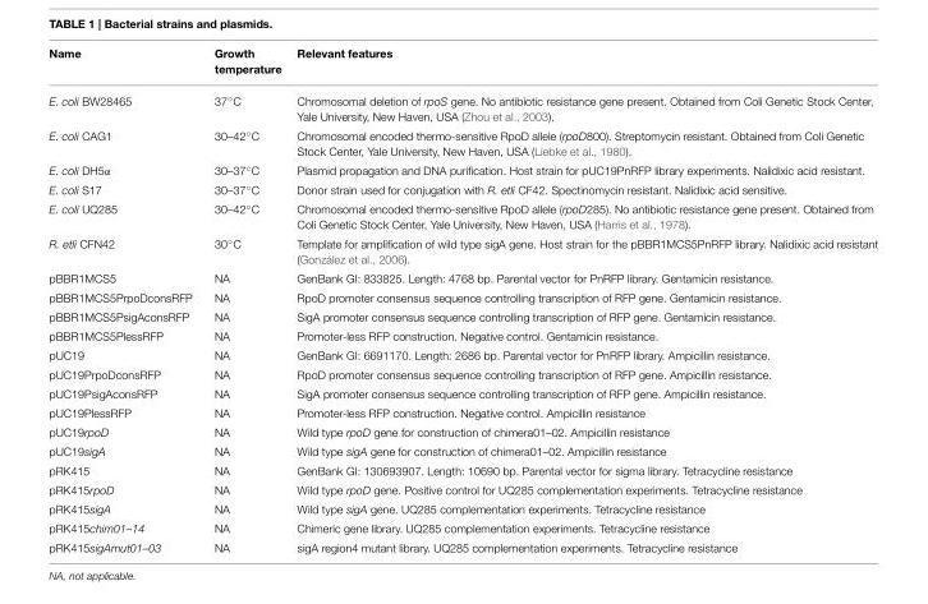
<table><thead><tr><td>Name</td><td>Growth temperature</td><td>Relevant features</td></tr></thead><tbody><tr><td>E. coli BW28465</td><td>37◦C</td><td>Chromosomal deletion of rpoS gene. No antibiotic resistance gene present. Obtained from Coli Genetic Stock Center, Yale University, New Haven, USA (Zhou et al., 2003).</td></tr><tr><td>E. coli CAG1</td><td>30–42◦C</td><td>Chromosomal encoded thermo-sensitive RpoD allele (rpoD800). Streptomycin resistant. Obtained from Coli Genetic Stock Center, Yale University, New Haven, USA (Liebke et al., 1980).</td></tr><tr><td>E. coli DH5α</td><td>30–37◦C</td><td>Plasmid propagation and DNA purification. Host strain for pUC19PnRFP library experiments. Nalidixic acid resistant.</td></tr><tr><td>E. coli S17</td><td>30–37◦C</td><td>Donor strain used for conjugation with R. etli CF42. Spectinomycin resistant. Nalidixic acid sensitive.</td></tr><tr><td>E. coli UQ285</td><td>30–42◦C</td><td>Chromosomal encoded thermo-sensitive RpoD allele (rpoD285). No antibiotic resistance gene present. Obtained from Coli Genetic Stock Center, Yale University, New Haven, USA (Harris et al., 1978).</td></tr><tr><td>R. etli CFN42</td><td>30◦C</td><td>Template for amplification of wild type sigA gene. Host strain for the pBBR1MCS5PnRFP library. Nalidixic acid resistant (González et al., 2006).</td></tr><tr><td>pBBR1MCS5</td><td>NA</td><td>GenBank GI: 833825. Length: 4768 bp. Parental vector for PnRFP library. Gentamicin resistance.</td></tr><tr><td>pBBR1MCS5PrpoDconsRFP</td><td>NA</td><td>RpoD promoter consensus sequence controlling transcription of RFP gene. Gentamicin resistance.</td></tr><tr><td>pBBR1MCS5PsigAconsRFP</td><td>NA</td><td>SigA promoter consensus sequence controlling transcription of RFP gene. Gentamicin resistance.</td></tr><tr><td>pBBR1MCS5PlessRFP</td><td>NA</td><td>Promoter-less RFP construction. Negative control. Gentamicin resistance.</td></tr><tr><td>pUC19</td><td>NA</td><td>GenBank GI: 6691170. Length: 2686 bp. Parental vector for PnRFP library. Ampicillin resistance.</td></tr><tr><td>pUC19PrpoDconsRFP</td><td>NA</td><td>RpoD promoter consensus sequence controlling transcription of RFP gene. Ampicillin resistance.</td></tr><tr><td>pUC19PsigAconsRFP</td><td>NA</td><td>SigA promoter consensus sequence controlling transcription of RFP gene. Ampicillin resistance.</td></tr><tr><td>pUC19PlessRFP</td><td>NA</td><td>Promoter-less RFP construction. Negative control. Ampicillin resistance</td></tr><tr><td>pUC19rpoD</td><td>NA</td><td>Wild type rpoD gene for construction of chimera01–02. Ampicillin resistance</td></tr><tr><td>pUC19sigA</td><td>NA</td><td>Wild type sigA gene for construction of chimera01–02. Ampicillin resistance</td></tr><tr><td>pRK415</td><td>NA</td><td>GenBank GI: 130693907. Length: 10690 bp. Parental vector for sigma library. Tetracycline resistance</td></tr><tr><td>pRK415rpoD</td><td>NA</td><td>Wild type rpoD gene. Positive control for UQ285 complementation experiments. Tetracycline resistance</td></tr><tr><td>pRK415sigA</td><td>NA</td><td>Wild type sigA gene. UQ285 complementation experiments. Tetracycline resistance</td></tr><tr><td>pRK415chim01–14</td><td>NA</td><td>Chimeric gene library. UQ285 complementation experiments. Tetracycline resistance</td></tr><tr><td>pRK415sigAmut01–03</td><td>NA</td><td>sigA region4 mutant library. UQ285 complementation experiments. Tetracycline resistance</td></tr></tbody></table>